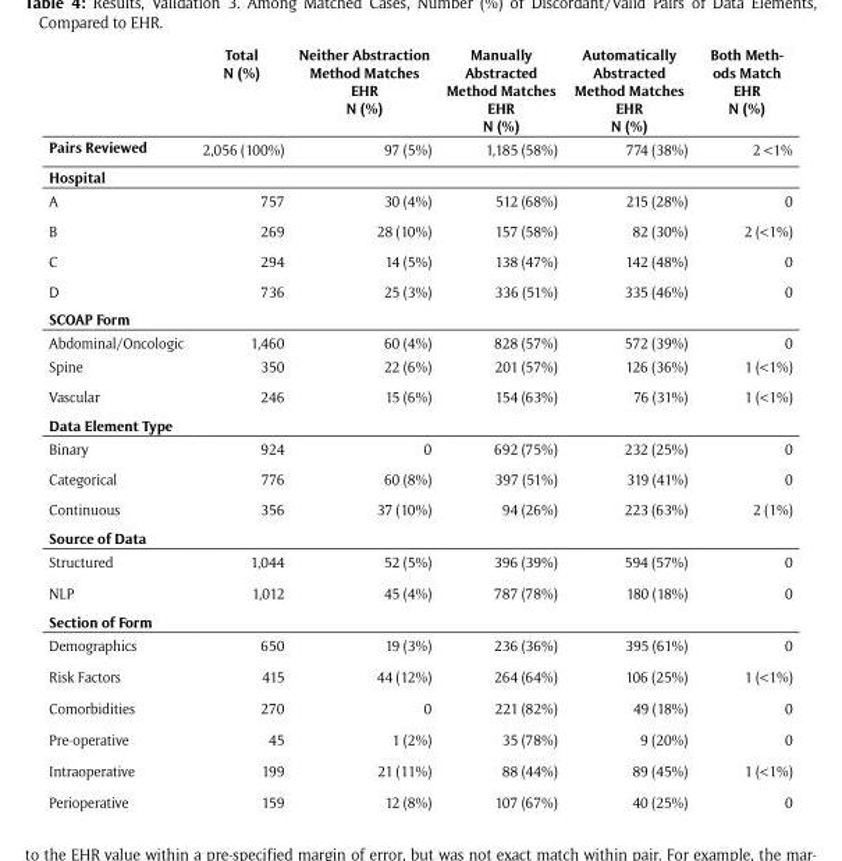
<table><thead><tr><td></td><td>Total N (%)</td><td>Neither Abstraction Method Matches EHR N (%)</td><td>Manually Abstracted Method Matches EHR N (%)</td><td>Automatically Abstracted Method Matches EHR N (%)</td><td>Both Meth- ods Match EHR N (%)</td></tr></thead><tbody><tr><td>Pairs Reviewed</td><td>2,056 (100%)</td><td>97 (5%)</td><td>1,185 (58%)</td><td>774 (38%)</td><td>2 &lt;1%</td></tr><tr><td colspan="6">Hospital</td></tr><tr><td>A</td><td>757</td><td>30 (4%)</td><td>512 (68%)</td><td>215 (28%)</td><td>0</td></tr><tr><td>B</td><td>269</td><td>28 (10%)</td><td>157 (58%)</td><td>82 (30%)</td><td>2 (&lt;1%)</td></tr><tr><td>C</td><td>294</td><td>14 (5%)</td><td>138 (47%)</td><td>142 (48%)</td><td>0</td></tr><tr><td>D</td><td>736</td><td>25 (3%)</td><td>336 (51%)</td><td>335 (46%)</td><td>0</td></tr><tr><td colspan="6">SCOAP Form</td></tr><tr><td>Abdominal/Oncologic</td><td>1,460</td><td>60 (4%)</td><td>828 (57%)</td><td>572 (39%)</td><td>0</td></tr><tr><td>Spine</td><td>350</td><td>22 (6%)</td><td>201 (57%)</td><td>126 (36%)</td><td>1 (&lt;1%)</td></tr><tr><td>Vascular</td><td>246</td><td>15 (6%)</td><td>154 (63%)</td><td>76 (31%)</td><td>1 (&lt;1%)</td></tr><tr><td colspan="6">Data Element Type</td></tr><tr><td>Binary</td><td>924</td><td>0</td><td>692 (75%)</td><td>232 (25%)</td><td>0</td></tr><tr><td>Categorical</td><td>776</td><td>60 (8%)</td><td>397 (51%)</td><td>319 (41%)</td><td>0</td></tr><tr><td>Continuous</td><td>356</td><td>37 (10%)</td><td>94 (26%)</td><td>223 (63%)</td><td>2 (1%)</td></tr><tr><td colspan="6">Source of Data</td></tr><tr><td>Structured</td><td>1,044</td><td>52 (5%)</td><td>396 (39%)</td><td>594 (57%)</td><td>0</td></tr><tr><td>NLP</td><td>1,012</td><td>45 (4%)</td><td>787 (78%)</td><td>180 (18%)</td><td>0</td></tr><tr><td colspan="6">Section of Form</td></tr><tr><td>Demographics</td><td>650</td><td>19 (3%)</td><td>236 (36%)</td><td>395 (61%)</td><td>0</td></tr><tr><td>Risk Factors</td><td>415</td><td>44 (12%)</td><td>264 (64%)</td><td>106 (25%)</td><td>1 (&lt;1%)</td></tr><tr><td>Comorbidities</td><td>270</td><td>0</td><td>221 (82%)</td><td>49 (18%)</td><td>0</td></tr><tr><td>Pre-operative</td><td>45</td><td>1 (2%)</td><td>35 (78%)</td><td>9 (20%)</td><td>0</td></tr><tr><td>Intraoperative</td><td>199</td><td>21 (11%)</td><td>88 (44%)</td><td>89 (45%)</td><td>1 (&lt;1%)</td></tr><tr><td>Perioperative</td><td>159</td><td>12 (8%)</td><td>107 (67%)</td><td>40 (25%)</td><td>0</td></tr></tbody></table>